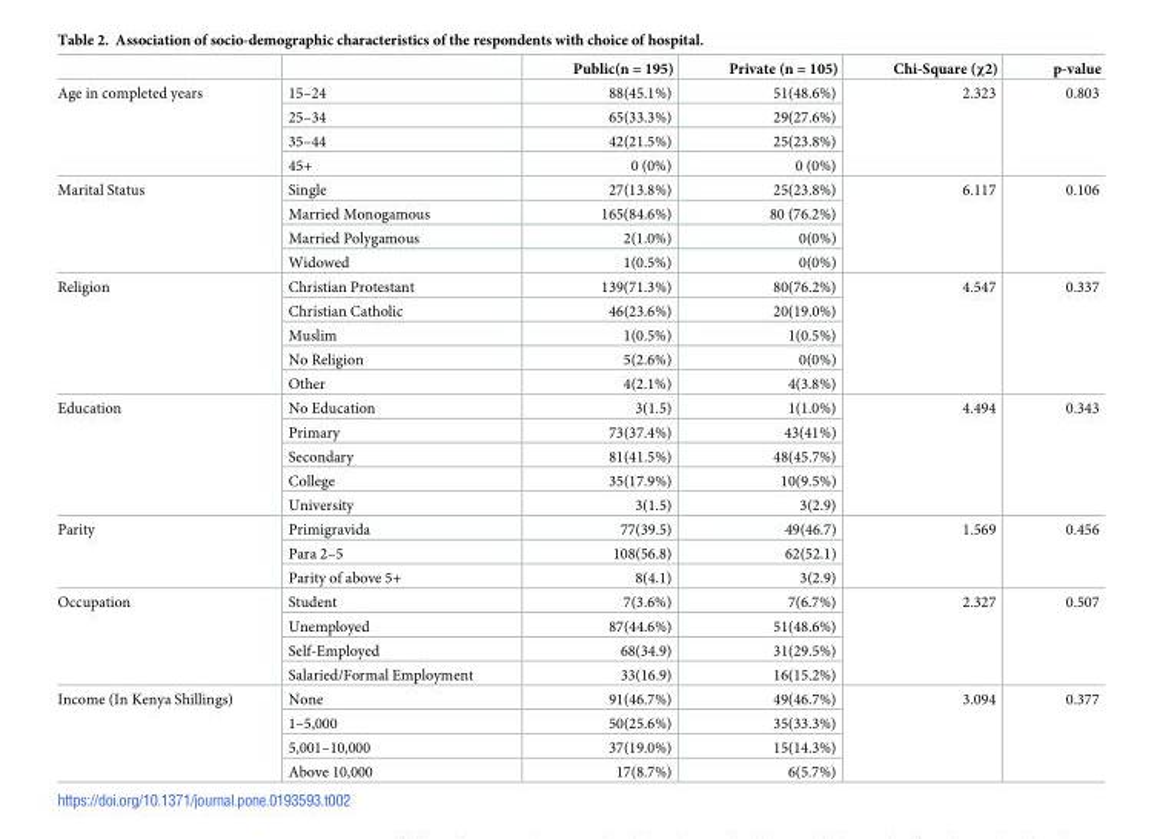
<table><thead><tr><td></td><td></td><td>Public(n = 195)</td><td>Private (n = 105)</td><td>Chi-Square (χ2)</td><td>p-value</td></tr></thead><tbody><tr><td rowspan="4">Age in completed years</td><td>15–24</td><td>88(45.1%)</td><td>51(48.6%)</td><td rowspan="4">2.323</td><td rowspan="4">0.803</td></tr><tr><td>25–34</td><td>65(33.3%)</td><td>29(27.6%)</td></tr><tr><td>35–44</td><td>42(21.5%)</td><td>25(23.8%)</td></tr><tr><td>45+</td><td>0 (0%)</td><td>0 (0%)</td></tr><tr><td rowspan="4">Marital Status</td><td>Single</td><td>27(13.8%)</td><td>25(23.8%)</td><td rowspan="4">6.117</td><td rowspan="4">0.106</td></tr><tr><td>Married Monogamous</td><td>165(84.6%)</td><td>80 (76.2%)</td></tr><tr><td>Married Polygamous</td><td>2(1.0%)</td><td>0(0%)</td></tr><tr><td>Widowed</td><td>1(0.5%)</td><td>0(0%)</td></tr><tr><td rowspan="5">Religion</td><td>Christian Protestant</td><td>139(71.3%)</td><td>80(76.2%)</td><td rowspan="5">4.547</td><td rowspan="5">0.337</td></tr><tr><td>Christian Catholic</td><td>46(23.6%)</td><td>20(19.0%)</td></tr><tr><td>Muslim</td><td>1(0.5%)</td><td>1(0.5%)</td></tr><tr><td>No Religion</td><td>5(2.6%)</td><td>0(0%)</td></tr><tr><td>Other</td><td>4(2.1%)</td><td>4(3.8%)</td></tr><tr><td rowspan="5">Education</td><td>No Education</td><td>3(1.5)</td><td>1(1.0%)</td><td rowspan="5">4.494</td><td rowspan="5">0.343</td></tr><tr><td>Primary</td><td>73(37.4%)</td><td>43(41%)</td></tr><tr><td>Secondary</td><td>81(41.5%)</td><td>48(45.7%)</td></tr><tr><td>College</td><td>35(17.9%)</td><td>10(9.5%)</td></tr><tr><td>University</td><td>3(1.5)</td><td>3(2.9)</td></tr><tr><td rowspan="3">Parity</td><td>Primigravida</td><td>77(39.5)</td><td>49(46.7)</td><td rowspan="3">1.569</td><td rowspan="3">0.456</td></tr><tr><td>Para 2–5</td><td>108(56.8)</td><td>62(52.1)</td></tr><tr><td>Parity of above 5+</td><td>8(4.1)</td><td>3(2.9)</td></tr><tr><td rowspan="4">Occupation</td><td>Student</td><td>7(3.6%)</td><td>7(6.7%)</td><td rowspan="4">2.327</td><td rowspan="4">0.507</td></tr><tr><td>Unemployed</td><td>87(44.6%)</td><td>51(48.6%)</td></tr><tr><td>Self-Employed</td><td>68(34.9)</td><td>31(29.5%)</td></tr><tr><td>Salaried/Formal Employment</td><td>33(16.9)</td><td>16(15.2%)</td></tr><tr><td rowspan="4">Income (In Kenya Shillings)</td><td>None</td><td>91(46.7%)</td><td>49(46.7%)</td><td rowspan="4">3.094</td><td rowspan="4">0.377</td></tr><tr><td>1–5,000</td><td>50(25.6%)</td><td>35(33.3%)</td></tr><tr><td>5,001–10,000</td><td>37(19.0%)</td><td>15(14.3%)</td></tr><tr><td>Above 10,000</td><td>17(8.7%)</td><td>6(5.7%)</td></tr></tbody></table>